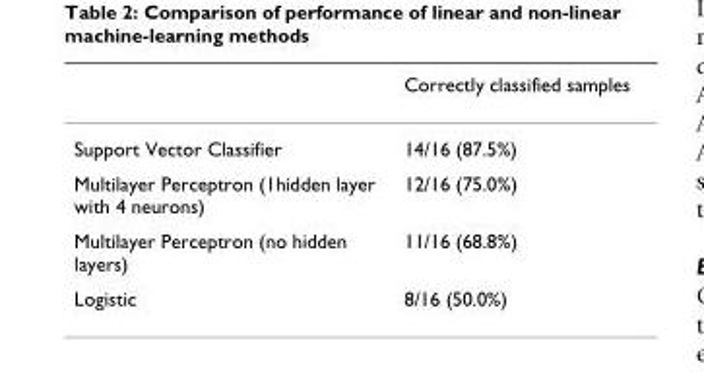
<table><thead><tr><td></td><td>Correctly classified samples</td></tr></thead><tbody><tr><td>Support Vector Classifier</td><td>14/16 (87.5%)</td></tr><tr><td>Multilayer Perceptron (1hidden layer with 4 neurons)</td><td>12/16 (75.0%)</td></tr><tr><td>Multilayer Perceptron (no hidden layers)</td><td>11/16 (68.8%)</td></tr><tr><td>Logistic</td><td>8/16 (50.0%)</td></tr></tbody></table>